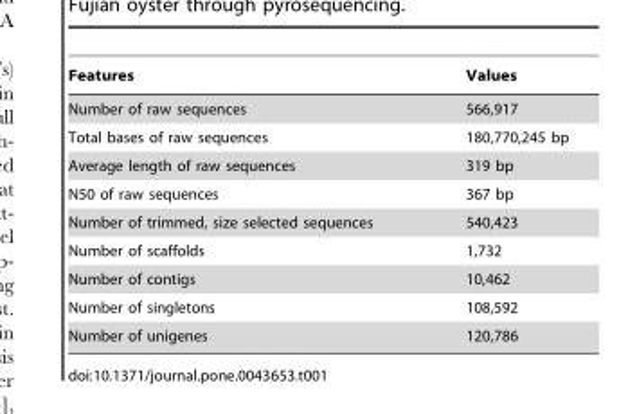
<table><thead><tr><td>Features</td><td>Values</td></tr></thead><tbody><tr><td>Number of raw sequences</td><td>566,917</td></tr><tr><td>Total bases of raw sequences</td><td>180,770,245 bp</td></tr><tr><td>Average length of raw sequences</td><td>319 bp</td></tr><tr><td>N50 of raw sequences</td><td>367 bp</td></tr><tr><td>Number of trimmed, size selected sequences</td><td>540,423</td></tr><tr><td>Number of scaffolds</td><td>1,732</td></tr><tr><td>Number of contigs</td><td>10,462</td></tr><tr><td>Number of singletons</td><td>108,592</td></tr><tr><td>Number of unigenes</td><td>120,786</td></tr></tbody></table>